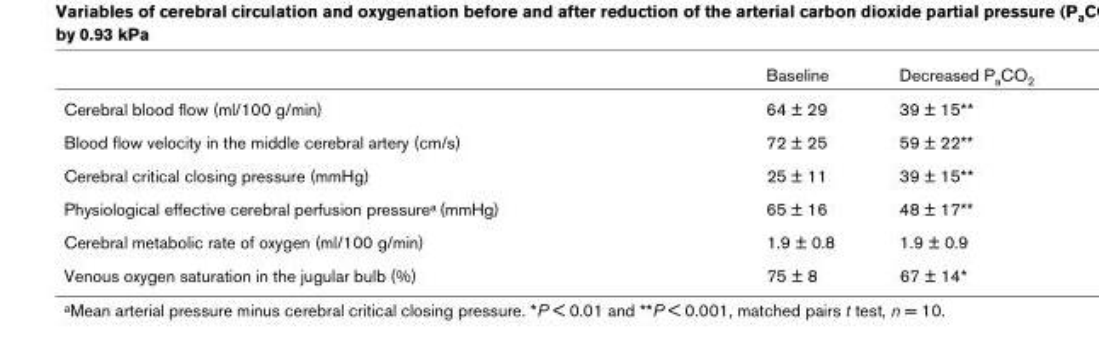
<table><thead><tr><td></td><td>Baseline</td><td>Decreased P<sub>a</sub>CO<sub>2</sub></td></tr></thead><tbody><tr><td>Cerebral blood flow (ml/100 g/min)</td><td>64 ± 29</td><td>39 ± 15**</td></tr><tr><td>Blood flow velocity in the middle cerebral artery (cm/s)</td><td>72 ± 25</td><td>59 ± 22**</td></tr><tr><td>Cerebral critical closing pressure (mmHg)</td><td>25 ± 11</td><td>39 ± 15**</td></tr><tr><td>Physiological effective cerebral perfusion pressure<sup>a</sup> (mmHg)</td><td>65 ± 16</td><td>48 ± 17**</td></tr><tr><td>Cerebral metabolic rate of oxygen (ml/100 g/min)</td><td>1.9 ± 0.8</td><td>1.9 ± 0.9</td></tr><tr><td>Venous oxygen saturation in the jugular bulb (%)</td><td>75 ± 8</td><td>67 ± 14*</td></tr></tbody></table>